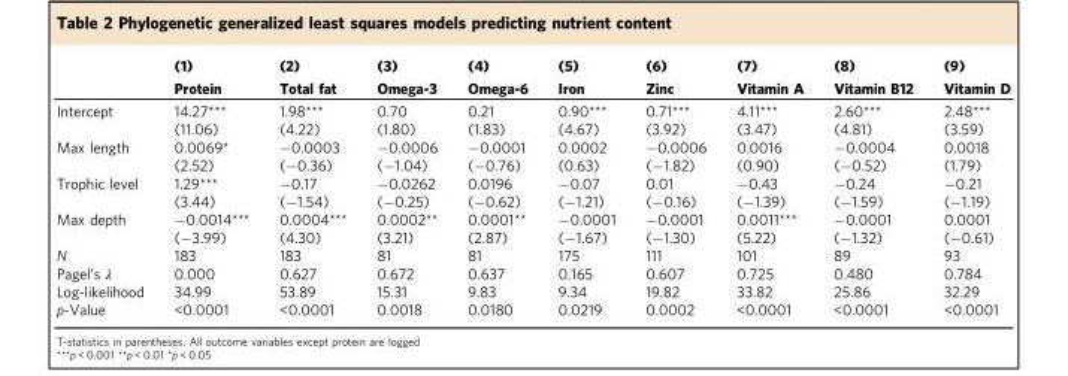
<table><thead><tr><td rowspan="2"></td><td rowspan="2">(1) Protein</td><td rowspan="2">(2) Total fat</td><td rowspan="2">(3) Omega-3</td><td rowspan="2">(4) Omega-6</td><td rowspan="2">(5) Iron</td><td rowspan="2">(6) Zinc</td><td rowspan="2">(7) Vitamin A</td><td rowspan="2">(8) Vitamin B12</td><td rowspan="2">(9) Vitamin D</td></tr><tr></tr></thead><tbody><tr><td rowspan="2">Intercept</td><td>14.27***</td><td>1.98***</td><td>0.70</td><td>0.21</td><td>0.90***</td><td>0.71***</td><td>4.11***</td><td>2.60***</td><td>2.48***</td></tr><tr><td>(11.06)</td><td>(4.22)</td><td>(1.80)</td><td>(1.83)</td><td>(4.67)</td><td>(3.92)</td><td>(3.47)</td><td>(4.81)</td><td>(3.59)</td></tr><tr><td rowspan="2">Max length</td><td>0.0069*</td><td>−0.0003</td><td>−0.0006</td><td>−0.0001</td><td>0.0002</td><td>−0.0006</td><td>0.0016</td><td>−0.0004</td><td>0.0018</td></tr><tr><td>(2.52)</td><td>(−0.36)</td><td>(−1.04)</td><td>(−0.76)</td><td>(0.63)</td><td>(−1.82)</td><td>(0.90)</td><td>(−0.52)</td><td>(1.79)</td></tr><tr><td rowspan="2">Trophic level</td><td>1.29***</td><td>−0.17</td><td>−0.0262</td><td>0.0196</td><td>−0.07</td><td>0.01</td><td>−0.43</td><td>−0.24</td><td>−0.21</td></tr><tr><td>(3.44)</td><td>(−1.54)</td><td>(−0.25)</td><td>(−0.62)</td><td>(−1.21)</td><td>(−0.16)</td><td>(−1.39)</td><td>(−1.59)</td><td>(−1.19)</td></tr><tr><td rowspan="2">Max depth</td><td>−0.0014***</td><td>0.0004***</td><td>0.0002**</td><td>0.0001**</td><td>−0.0001</td><td>−0.0001</td><td>0.0011***</td><td>−0.0001</td><td>0.0001</td></tr><tr><td>(−3.99)</td><td>(4.30)</td><td>(3.21)</td><td>(2.87)</td><td>(−1.67)</td><td>(−1.30)</td><td>(5.22)</td><td>(−1.32)</td><td>(−0.61)</td></tr><tr><td>N</td><td>183</td><td>183</td><td>81</td><td>81</td><td>175</td><td>111</td><td>101</td><td>89</td><td>93</td></tr><tr><td>Pagel’s λ</td><td>0.000</td><td>0.627</td><td>0.672</td><td>0.637</td><td>0.165</td><td>0.607</td><td>0.725</td><td>0.480</td><td>0.784</td></tr><tr><td>Log-likelihood</td><td>34.99</td><td>53.89</td><td>15.31</td><td>9.83</td><td>9.34</td><td>19.82</td><td>33.82</td><td>25.86</td><td>32.29</td></tr><tr><td>p-Value</td><td>&lt;0.0001</td><td>&lt;0.0001</td><td>0.0018</td><td>0.0180</td><td>0.0219</td><td>0.0002</td><td>&lt;0.0001</td><td>&lt;0.0001</td><td>&lt;0.0001</td></tr></tbody></table>